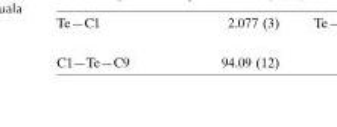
<table><tbody><tr><td>C1—Te—C9</td><td>94.09 (12)</td></tr></tbody></table>